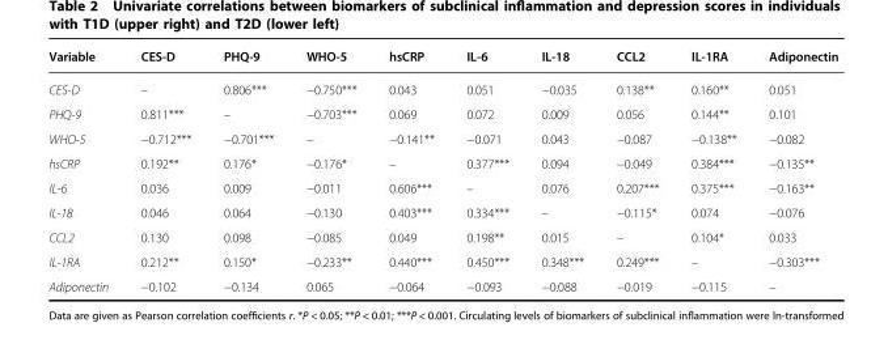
<table><thead><tr><td>Variable</td><td>CES-D</td><td>PHQ-9</td><td>WHO-5</td><td>hsCRP</td><td>IL-6</td><td>IL-18</td><td>CCL2</td><td>IL-1RA</td><td>Adiponectin</td></tr></thead><tbody><tr><td>CES-D</td><td>–</td><td>0.806***</td><td>−0.750***</td><td>0.043</td><td>0.051</td><td>−0.035</td><td>0.138**</td><td>0.160**</td><td>0.051</td></tr><tr><td>PHQ-9</td><td>0.811***</td><td>–</td><td>−0.703***</td><td>0.069</td><td>0.072</td><td>0.009</td><td>0.056</td><td>0.144**</td><td>0.101</td></tr><tr><td>WHO-5</td><td>−0.712***</td><td>−0.701***</td><td>–</td><td>−0.141**</td><td>−0.071</td><td>0.043</td><td>−0.087</td><td>−0.138**</td><td>−0.082</td></tr><tr><td>hsCRP</td><td>0.192**</td><td>0.176*</td><td>−0.176*</td><td>–</td><td>0.377***</td><td>0.094</td><td>−0.049</td><td>0.384***</td><td>−0.135**</td></tr><tr><td>IL-6</td><td>0.036</td><td>0.009</td><td>−0.011</td><td>0.606***</td><td>–</td><td>0.076</td><td>0.207***</td><td>0.375***</td><td>−0.163**</td></tr><tr><td>IL-18</td><td>0.046</td><td>0.064</td><td>−0.130</td><td>0.403***</td><td>0.334***</td><td>–</td><td>−0.115*</td><td>0.074</td><td>−0.076</td></tr><tr><td>CCL2</td><td>0.130</td><td>0.098</td><td>−0.085</td><td>0.049</td><td>0.198**</td><td>0.015</td><td>–</td><td>0.104*</td><td>0.033</td></tr><tr><td>IL-1RA</td><td>0.212**</td><td>0.150*</td><td>−0.233**</td><td>0.440***</td><td>0.450***</td><td>0.348***</td><td>0.249***</td><td>–</td><td>−0.303***</td></tr><tr><td>Adiponectin</td><td>−0.102</td><td>−0.134</td><td>0.065</td><td>−0.064</td><td>−0.093</td><td>−0.088</td><td>−0.019</td><td>−0.115</td><td>–</td></tr></tbody></table>